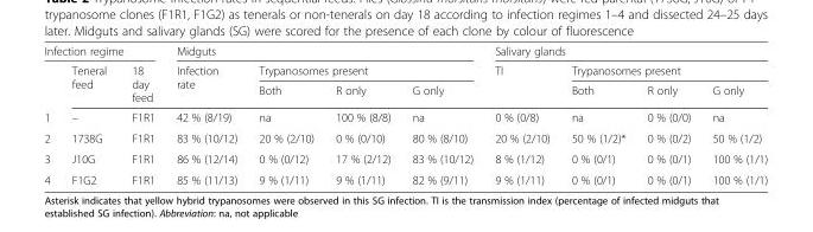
<table><thead><tr><td colspan="3">Infection regime</td><td colspan="4">Midguts</td><td colspan="4">Salivary glands</td></tr><tr><td rowspan="2"></td><td rowspan="2">Teneral feed</td><td rowspan="2">18 day feed</td><td rowspan="2">Infection rate</td><td colspan="3">Trypanosomes present</td><td rowspan="2">TI</td><td colspan="3">Trypanosomes present</td></tr><tr><td>Both</td><td>R only</td><td>G only</td><td>Both</td><td>R only</td><td>G only</td></tr></thead><tbody><tr><td>1</td><td>–</td><td>F1R1</td><td>42 % (8/19)</td><td>na</td><td>100 % (8/8)</td><td>na</td><td>0 % (0/8)</td><td>na</td><td>0 % (0/0)</td><td>na</td></tr><tr><td>2</td><td>1738G</td><td>F1R1</td><td>83 % (10/12)</td><td>20 % (2/10)</td><td>0 % (0/10)</td><td>80 % (8/10)</td><td>20 % (2/10)</td><td>50 % (1/2)*</td><td>0 % (0/2)</td><td>50 % (1/2)</td></tr><tr><td>3</td><td>J10G</td><td>F1R1</td><td>86 % (12/14)</td><td>0 % (0/12)</td><td>17 % (2/12)</td><td>83 % (10/12)</td><td>8 % (1/12)</td><td>0 % (0/1)</td><td>0 % (0/1)</td><td>100 % (1/1)</td></tr><tr><td>4</td><td>F1G2</td><td>F1R1</td><td>85 % (11/13)</td><td>9 % (1/11)</td><td>9 % (1/11)</td><td>82 % (9/11)</td><td>9 % (1/11)</td><td>0 % (0/1)</td><td>0 % (0/1)</td><td>100 % (1/1)</td></tr></tbody></table>